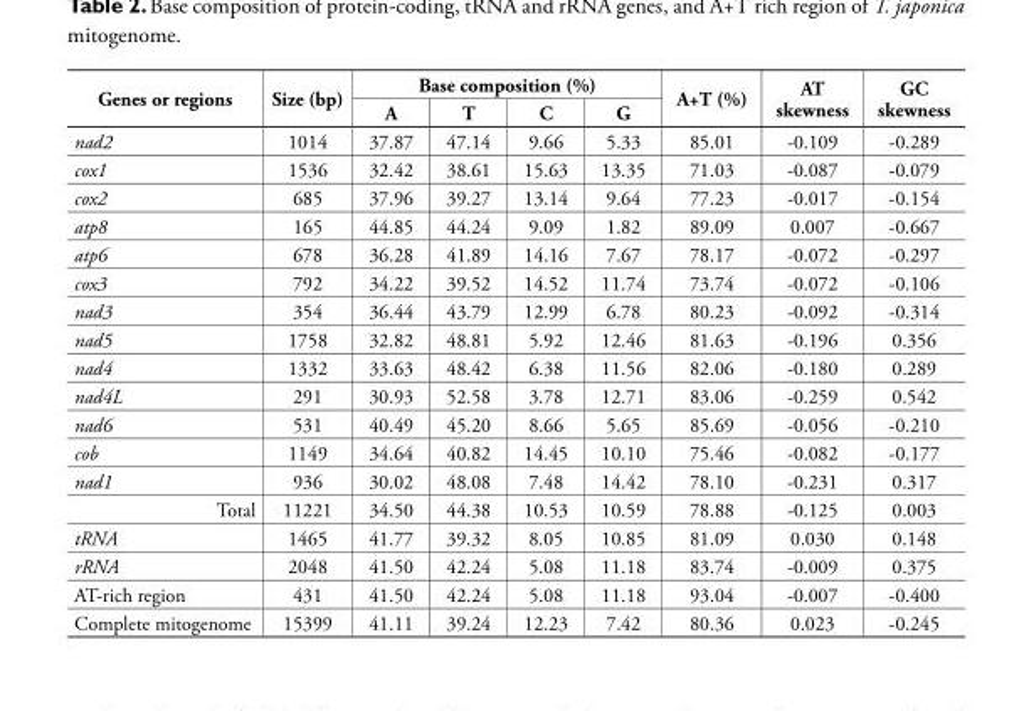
<table><tbody><tr><td rowspan="2">Genes or regions</td><td rowspan="2">Size (bp)</td><td colspan="4">Base composition (%)</td><td rowspan="2">A+T (%)</td><td rowspan="2">AT skewness</td><td rowspan="2">GC skewness</td></tr><tr><td>A</td><td>T</td><td>C</td><td>G</td></tr><tr><td>nad2</td><td>1014</td><td>37.87</td><td>47.14</td><td>9.66</td><td>5.33</td><td>85.01</td><td>-0.109</td><td>-0.289</td></tr><tr><td>cox1</td><td>1536</td><td>32.42</td><td>38.61</td><td>15.63</td><td>13.35</td><td>71.03</td><td>-0.087</td><td>-0.079</td></tr><tr><td>cox2</td><td>685</td><td>37.96</td><td>39.27</td><td>13.14</td><td>9.64</td><td>77.23</td><td>-0.017</td><td>-0.154</td></tr><tr><td>atp8</td><td>165</td><td>44.85</td><td>44.24</td><td>9.09</td><td>1.82</td><td>89.09</td><td>0.007</td><td>-0.667</td></tr><tr><td>atp6</td><td>678</td><td>36.28</td><td>41.89</td><td>14.16</td><td>7.67</td><td>78.17</td><td>-0.072</td><td>-0.297</td></tr><tr><td>cox3</td><td>792</td><td>34.22</td><td>39.52</td><td>14.52</td><td>11.74</td><td>73.74</td><td>-0.072</td><td>-0.106</td></tr><tr><td>nad3</td><td>354</td><td>36.44</td><td>43.79</td><td>12.99</td><td>6.78</td><td>80.23</td><td>-0.092</td><td>-0.314</td></tr><tr><td>nad5</td><td>1758</td><td>32.82</td><td>48.81</td><td>5.92</td><td>12.46</td><td>81.63</td><td>-0.196</td><td>0.356</td></tr><tr><td>nad4</td><td>1332</td><td>33.63</td><td>48.42</td><td>6.38</td><td>11.56</td><td>82.06</td><td>-0.180</td><td>0.289</td></tr><tr><td>nad4L</td><td>291</td><td>30.93</td><td>52.58</td><td>3.78</td><td>12.71</td><td>83.06</td><td>-0.259</td><td>0.542</td></tr><tr><td>nad6</td><td>531</td><td>40.49</td><td>45.20</td><td>8.66</td><td>5.65</td><td>85.69</td><td>-0.056</td><td>-0.210</td></tr><tr><td>cob</td><td>1149</td><td>34.64</td><td>40.82</td><td>14.45</td><td>10.10</td><td>75.46</td><td>-0.082</td><td>-0.177</td></tr><tr><td>nad1</td><td>936</td><td>30.02</td><td>48.08</td><td>7.48</td><td>14.42</td><td>78.10</td><td>-0.231</td><td>0.317</td></tr><tr><td>Total</td><td>11221</td><td>34.50</td><td>44.38</td><td>10.53</td><td>10.59</td><td>78.88</td><td>-0.125</td><td>0.003</td></tr><tr><td>tRNA</td><td>1465</td><td>41.77</td><td>39.32</td><td>8.05</td><td>10.85</td><td>81.09</td><td>0.030</td><td>0.148</td></tr><tr><td>rRNA</td><td>2048</td><td>41.50</td><td>42.24</td><td>5.08</td><td>11.18</td><td>83.74</td><td>-0.009</td><td>0.375</td></tr><tr><td>AT-rich region</td><td>431</td><td>41.50</td><td>42.24</td><td>5.08</td><td>11.18</td><td>93.04</td><td>-0.007</td><td>-0.400</td></tr><tr><td>Complete mitogenome</td><td>15399</td><td>41.11</td><td>39.24</td><td>12.23</td><td>7.42</td><td>80.36</td><td>0.023</td><td>-0.245</td></tr></tbody></table>